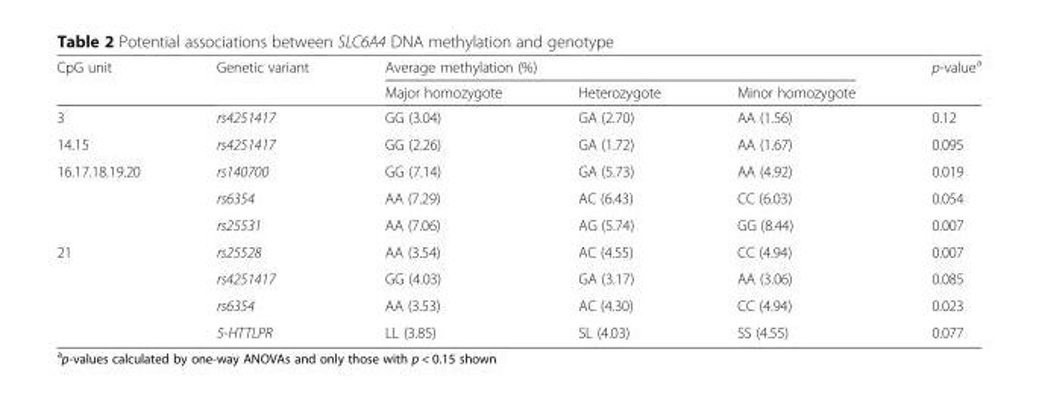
<table><thead><tr><td rowspan="2">CpG unit</td><td rowspan="2">Genetic variant</td><td colspan="3">Average methylation (%)</td><td rowspan="2">p-value<sup>a</sup></td></tr><tr><td>Major homozygote</td><td>Heterozygote</td><td>Minor homozygote</td></tr></thead><tbody><tr><td>3</td><td>rs4251417</td><td>GG (3.04)</td><td>GA (2.70)</td><td>AA (1.56)</td><td>0.12</td></tr><tr><td>14.15</td><td>rs4251417</td><td>GG (2.26)</td><td>GA (1.72)</td><td>AA (1.67)</td><td>0.095</td></tr><tr><td rowspan="3">16.17.18.19.20</td><td>rs140700</td><td>GG (7.14)</td><td>GA (5.73)</td><td>AA (4.92)</td><td>0.019</td></tr><tr><td>rs6354</td><td>AA (7.29)</td><td>AC (6.43)</td><td>CC (6.03)</td><td>0.054</td></tr><tr><td>rs25531</td><td>AA (7.06)</td><td>AG (5.74)</td><td>GG (8.44)</td><td>0.007</td></tr><tr><td rowspan="4">21</td><td>rs25528</td><td>AA (3.54)</td><td>AC (4.55)</td><td>CC (4.94)</td><td>0.007</td></tr><tr><td>rs4251417</td><td>GG (4.03)</td><td>GA (3.17)</td><td>AA (3.06)</td><td>0.085</td></tr><tr><td>rs6354</td><td>AA (3.53)</td><td>AC (4.30)</td><td>CC (4.94)</td><td>0.023</td></tr><tr><td>5-HTTLPR</td><td>LL (3.85)</td><td>SL (4.03)</td><td>SS (4.55)</td><td>0.077</td></tr></tbody></table>